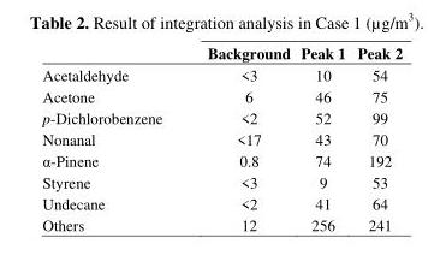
<table><thead><tr><td></td><td>Background</td><td>Peak 1</td><td>Peak 2</td></tr></thead><tbody><tr><td>Acetaldehyde</td><td>&lt;3</td><td>10</td><td>54</td></tr><tr><td>Acetone</td><td>6</td><td>46</td><td>75</td></tr><tr><td>p-Dichlorobenzene</td><td>&lt;2</td><td>52</td><td>99</td></tr><tr><td>Nonanal</td><td>&lt;17</td><td>43</td><td>70</td></tr><tr><td>α-Pinene</td><td>0.8</td><td>74</td><td>192</td></tr><tr><td>Styrene</td><td>&lt;3</td><td>9</td><td>53</td></tr><tr><td>Undecane</td><td>&lt;2</td><td>41</td><td>64</td></tr><tr><td>Others</td><td>12</td><td>256</td><td>241</td></tr></tbody></table>